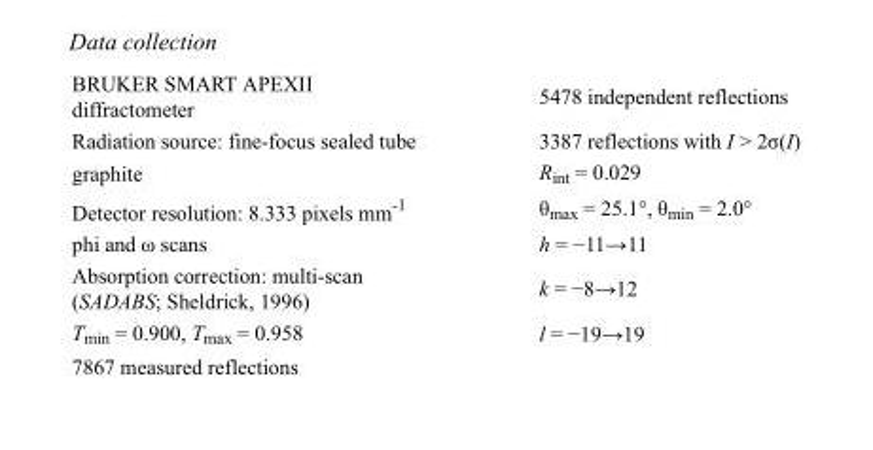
<table><tbody><tr><td>BRUKER SMART APEXII diffractometer</td><td>5478 independent reflections</td></tr><tr><td>Radiation source: fine-focus sealed tube</td><td>3387 reflections with I &gt; 2σ(I)</td></tr><tr><td>graphite</td><td>R<sub>int</sub> = 0.029</td></tr><tr><td>Detector resolution: 8.333 pixels mm<sup>-1</sup></td><td>θ<sub>max</sub> = 25.1°, θ<sub>min</sub> = 2.0°</td></tr><tr><td>phi and ω scans</td><td>h = −11→11</td></tr><tr><td>Absorption correction: multi-scan (SADABS; Sheldrick, 1996)</td><td>k = −8→12</td></tr><tr><td>T<sub>min</sub> = 0.900, T<sub>max</sub> = 0.958</td><td>l = −19→19</td></tr><tr><td>7867 measured reflections</td><td></td></tr></tbody></table>